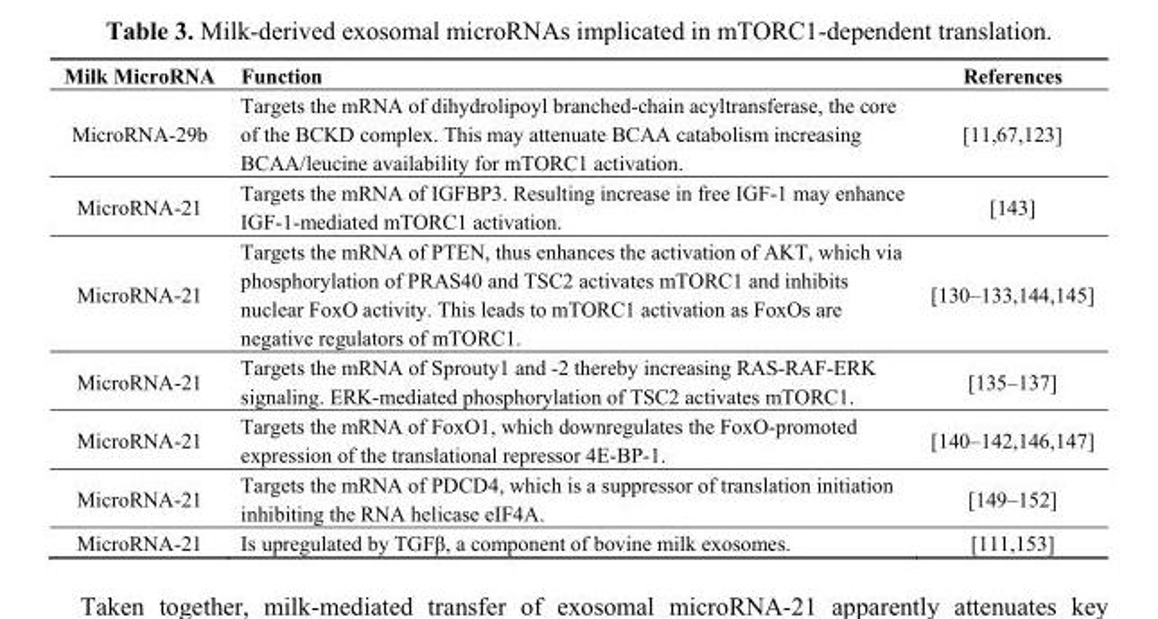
<table><thead><tr><td>Milk MicroRNA</td><td>Function</td><td>References</td></tr></thead><tbody><tr><td>MicroRNA-29b</td><td>Targets the mRNA of dihydrolipoyl branched-chain acyltransferase, the core of the BCKD complex. This may attenuate BCAA catabolism increasing BCAA/leucine availability for mTORC1 activation.</td><td>[11,67,123]</td></tr><tr><td>MicroRNA-21</td><td>Targets the mRNA of IGFBP3. Resulting increase in free IGF-1 may enhance IGF-1-mediated mTORC1 activation.</td><td>[143]</td></tr><tr><td>MicroRNA-21</td><td>Targets the mRNA of PTEN, thus enhances the activation of AKT, which via phosphorylation of PRAS40 and TSC2 activates mTORC1 and inhibits nuclear FoxO activity. This leads to mTORC1 activation as FoxOs are negative regulators of mTORC1.</td><td>[130–133,144,145]</td></tr><tr><td>MicroRNA-21</td><td>Targets the mRNA of Sprouty1 and -2 thereby increasing RAS-RAF-ERK signaling. ERK-mediated phosphorylation of TSC2 activates mTORC1.</td><td>[135–137]</td></tr><tr><td>MicroRNA-21</td><td>Targets the mRNA of FoxO1, which downregulates the FoxO-promoted expression of the translational repressor 4E-BP-1.</td><td>[140–142,146,147]</td></tr><tr><td>MicroRNA-21</td><td>Targets the mRNA of PDCD4, which is a suppressor of translation initiation inhibiting the RNA helicase eIF4A.</td><td>[149–152]</td></tr><tr><td>MicroRNA-21</td><td>Is upregulated by TGFβ, a component of bovine milk exosomes.</td><td>[111,153]</td></tr></tbody></table>